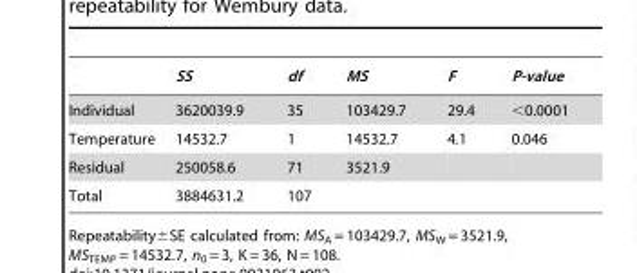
<table><thead><tr><td></td><td>SS</td><td>df</td><td>MS</td><td>F</td><td>P-value</td></tr></thead><tbody><tr><td>Individual</td><td>3620039.9</td><td>35</td><td>103429.7</td><td>29.4</td><td>&lt;0.0001</td></tr><tr><td>Temperature</td><td>14532.7</td><td>1</td><td>14532.7</td><td>4.1</td><td>0.046</td></tr><tr><td>Residual</td><td>250058.6</td><td>71</td><td>3521.9</td><td></td><td></td></tr><tr><td>Total</td><td>3884631.2</td><td>107</td><td></td><td></td><td></td></tr></tbody></table>